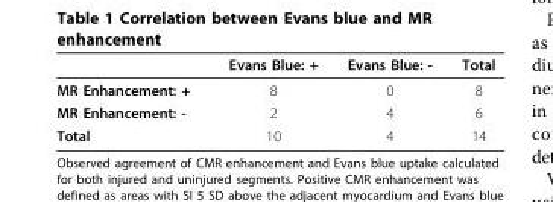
<table><thead><tr><td></td><td>Evans Blue: +</td><td>Evans Blue: -</td><td>Total</td></tr></thead><tbody><tr><td>MR Enhancement: +</td><td>8</td><td>0</td><td>8</td></tr><tr><td>MR Enhancement: -</td><td>2</td><td>4</td><td>6</td></tr><tr><td>Total</td><td>10</td><td>4</td><td>14</td></tr></tbody></table>